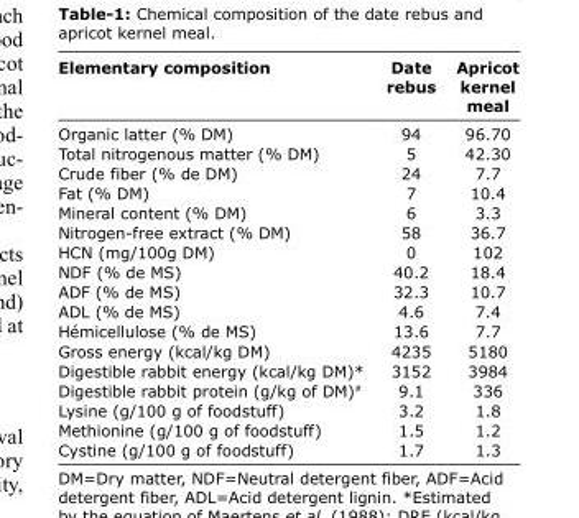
<table><thead><tr><td>Elementary composition</td><td>Date rebus</td><td>Apricot kernel meal</td></tr></thead><tbody><tr><td>Organic latter (% DM)</td><td>94</td><td>96.70</td></tr><tr><td>Total nitrogenous matter (% DM)</td><td>5</td><td>42.30</td></tr><tr><td>Crude fiber (% de DM)</td><td>24</td><td>7.7</td></tr><tr><td>Fat (% DM)</td><td>7</td><td>10.4</td></tr><tr><td>Mineral content (% DM)</td><td>6</td><td>3.3</td></tr><tr><td>Nitrogen-free extract (% DM)</td><td>58</td><td>36.7</td></tr><tr><td>HCN (mg/100g DM)</td><td>0</td><td>102</td></tr><tr><td>NDF (% de MS)</td><td>40.2</td><td>18.4</td></tr><tr><td>ADF (% de MS)</td><td>32.3</td><td>10.7</td></tr><tr><td>ADL (% de MS)</td><td>4.6</td><td>7.4</td></tr><tr><td>Hémicellulose (% de MS)</td><td>13.6</td><td>7.7</td></tr><tr><td>Gross energy (kcal/kg DM)</td><td>4235</td><td>5180</td></tr><tr><td>Digestible rabbit energy (kcal/kg DM)*</td><td>3152</td><td>3984</td></tr><tr><td>Digestible rabbit protein (g/kg of DM)<sup>#</sup></td><td>9.1</td><td>336</td></tr><tr><td>Lysine (g/100 g of foodstuff)</td><td>3.2</td><td>1.8</td></tr><tr><td>Methionine (g/100 g of foodstuff)</td><td>1.5</td><td>1.2</td></tr><tr><td>Cystine (g/100 g of foodstuff)</td><td>1.7</td><td>1.3</td></tr></tbody></table>